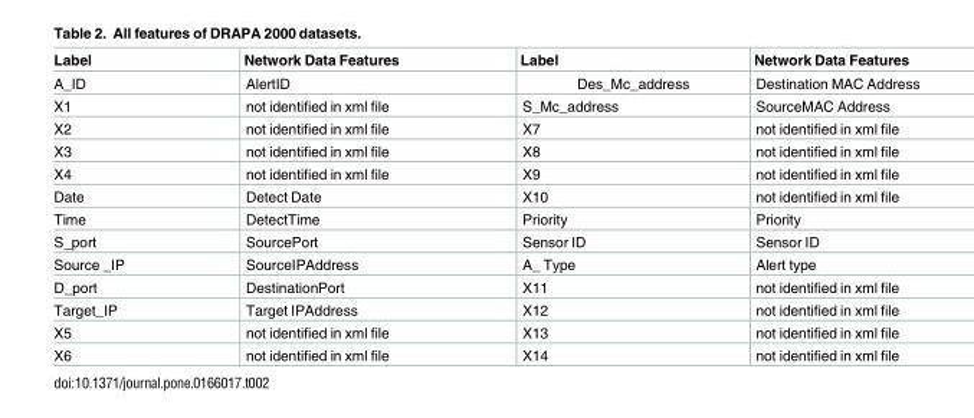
<table><thead><tr><td>Label</td><td>Network Data Features</td><td>Label</td><td>Network Data Features</td></tr></thead><tbody><tr><td>A_ID</td><td>AlertID</td><td>Des_Mc_address</td><td>Destination MAC Address</td></tr><tr><td>X1</td><td>not identified in xml file</td><td>S_Mc_address</td><td>SourceMAC Address</td></tr><tr><td>X2</td><td>not identified in xml file</td><td>X7</td><td>not identified in xml file</td></tr><tr><td>X3</td><td>not identified in xml file</td><td>X8</td><td>not identified in xml file</td></tr><tr><td>X4</td><td>not identified in xml file</td><td>X9</td><td>not identified in xml file</td></tr><tr><td>Date</td><td>Detect Date</td><td>X10</td><td>not identified in xml file</td></tr><tr><td>Time</td><td>DetectTime</td><td>Priority</td><td>Priority</td></tr><tr><td>S_port</td><td>SourcePort</td><td>Sensor ID</td><td>Sensor ID</td></tr><tr><td>Source _IP</td><td>SourceIPAddress</td><td>A_ Type</td><td>Alert type</td></tr><tr><td>D_port</td><td>DestinationPort</td><td>X11</td><td>not identified in xml file</td></tr><tr><td>Target_IP</td><td>Target IPAddress</td><td>X12</td><td>not identified in xml file</td></tr><tr><td>X5</td><td>not identified in xml file</td><td>X13</td><td>not identified in xml file</td></tr><tr><td>X6</td><td>not identified in xml file</td><td>X14</td><td>not identified in xml file</td></tr></tbody></table>